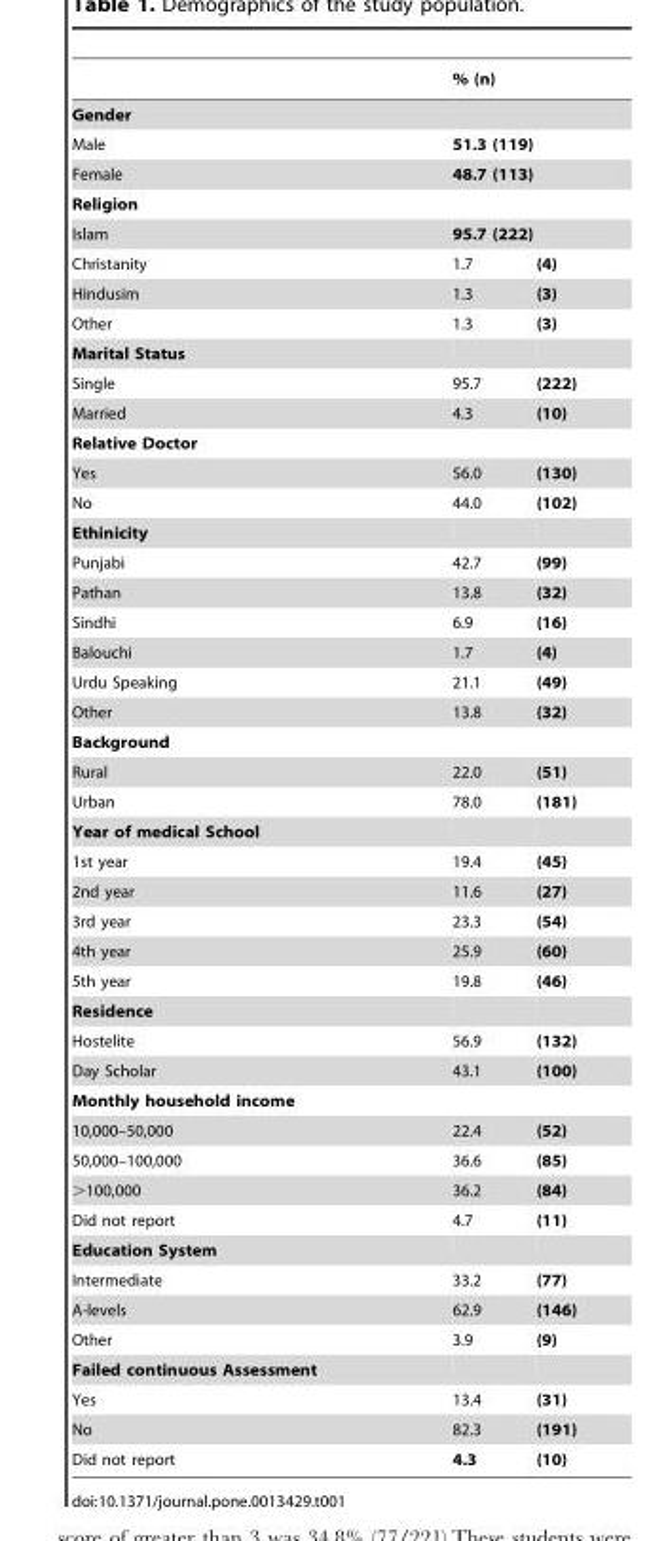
<table><thead><tr><td></td><td colspan="2">% (n)</td></tr></thead><tbody><tr><td colspan="3">Gender</td></tr><tr><td>Male</td><td colspan="2">51.3 (119)</td></tr><tr><td>Female</td><td colspan="2">48.7 (113)</td></tr><tr><td colspan="3">Religion</td></tr><tr><td>Islam</td><td colspan="2">95.7 (222)</td></tr><tr><td>Christanity</td><td>1.7</td><td>(4)</td></tr><tr><td>Hindusim</td><td>1.3</td><td>(3)</td></tr><tr><td>Other</td><td>1.3</td><td>(3)</td></tr><tr><td colspan="3">Marital Status</td></tr><tr><td>Single</td><td>95.7</td><td>(222)</td></tr><tr><td>Married</td><td>4.3</td><td>(10)</td></tr><tr><td colspan="3">Relative Doctor</td></tr><tr><td>Yes</td><td>56.0</td><td>(130)</td></tr><tr><td>No</td><td>44.0</td><td>(102)</td></tr><tr><td colspan="3">Ethinicity</td></tr><tr><td>Punjabi</td><td>42.7</td><td>(99)</td></tr><tr><td>Pathan</td><td>13.8</td><td>(32)</td></tr><tr><td>Sindhi</td><td>6.9</td><td>(16)</td></tr><tr><td>Balouchi</td><td>1.7</td><td>(4)</td></tr><tr><td>Urdu Speaking</td><td>21.1</td><td>(49)</td></tr><tr><td>Other</td><td>13.8</td><td>(32)</td></tr><tr><td colspan="3">Background</td></tr><tr><td>Rural</td><td>22.0</td><td>(51)</td></tr><tr><td>Urban</td><td>78.0</td><td>(181)</td></tr><tr><td colspan="3">Year of medical School</td></tr><tr><td>1st year</td><td>19.4</td><td>(45)</td></tr><tr><td>2nd year</td><td>11.6</td><td>(27)</td></tr><tr><td>3rd year</td><td>23.3</td><td>(54)</td></tr><tr><td>4th year</td><td>25.9</td><td>(60)</td></tr><tr><td>5th year</td><td>19.8</td><td>(46)</td></tr><tr><td colspan="3">Residence</td></tr><tr><td>Hostelite</td><td>56.9</td><td>(132)</td></tr><tr><td>Day Scholar</td><td>43.1</td><td>(100)</td></tr><tr><td colspan="3">Monthly household income</td></tr><tr><td>10,000–50,000</td><td>22.4</td><td>(52)</td></tr><tr><td>50,000–100,000</td><td>36.6</td><td>(85)</td></tr><tr><td>&gt;100,000</td><td>36.2</td><td>(84)</td></tr><tr><td>Did not report</td><td>4.7</td><td>(11)</td></tr><tr><td colspan="3">Education System</td></tr><tr><td>Intermediate</td><td>33.2</td><td>(77)</td></tr><tr><td>A-levels</td><td>62.9</td><td>(146)</td></tr><tr><td>Other</td><td>3.9</td><td>(9)</td></tr><tr><td colspan="3">Failed continuous Assessment</td></tr><tr><td>Yes</td><td>13.4</td><td>(31)</td></tr><tr><td>No</td><td>82.3</td><td>(191)</td></tr><tr><td>Did not report</td><td>4.3</td><td>(10)</td></tr></tbody></table>